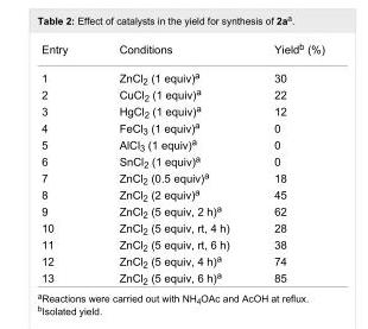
<table><tbody><tr><td>Entry</td><td>Conditions</td><td>Yield<sup>b</sup> (%)</td></tr><tr><td>1</td><td>ZnCl<sub>2</sub> (1 equiv)<sup>a</sup></td><td>30</td></tr><tr><td>2</td><td>CuCl<sub>2</sub> (1 equiv)<sup>a</sup></td><td>22</td></tr><tr><td>3</td><td>HgCl<sub>2</sub> (1 equiv)<sup>a</sup></td><td>12</td></tr><tr><td>4</td><td>FeCl<sub>3</sub> (1 equiv)<sup>a</sup></td><td>0</td></tr><tr><td>5</td><td>AlCl<sub>3</sub> (1 equiv)<sup>a</sup></td><td>0</td></tr><tr><td>6</td><td>SnCl<sub>2</sub> (1 equiv)<sup>a</sup></td><td>0</td></tr><tr><td>7</td><td>ZnCl<sub>2</sub> (0.5 equiv)<sup>a</sup></td><td>18</td></tr><tr><td>8</td><td>ZnCl<sub>2</sub> (2 equiv)<sup>a</sup></td><td>45</td></tr><tr><td>9</td><td>ZnCl<sub>2</sub> (5 equiv, 2 h)<sup>a</sup></td><td>62</td></tr><tr><td>10</td><td>ZnCl<sub>2</sub> (5 equiv, rt, 4 h)</td><td>28</td></tr><tr><td>11</td><td>ZnCl<sub>2</sub> (5 equiv, rt, 6 h)</td><td>38</td></tr><tr><td>12</td><td>ZnCl<sub>2</sub> (5 equiv, 4 h)<sup>a</sup></td><td>74</td></tr><tr><td>13</td><td>ZnCl<sub>2</sub> (5 equiv, 6 h)<sup>a</sup></td><td>85</td></tr></tbody></table>